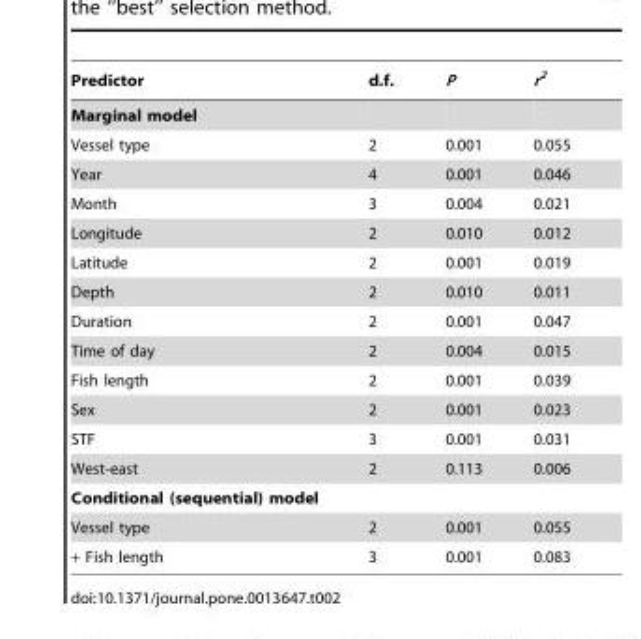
<table><thead><tr><td>Predictor</td><td>d.f.</td><td>P</td><td>r<sup>2</sup></td></tr></thead><tbody><tr><td colspan="4">Marginal model</td></tr><tr><td>Vessel type</td><td>2</td><td>0.001</td><td>0.055</td></tr><tr><td>Year</td><td>4</td><td>0.001</td><td>0.046</td></tr><tr><td>Month</td><td>3</td><td>0.004</td><td>0.021</td></tr><tr><td>Longitude</td><td>2</td><td>0.010</td><td>0.012</td></tr><tr><td>Latitude</td><td>2</td><td>0.001</td><td>0.019</td></tr><tr><td>Depth</td><td>2</td><td>0.010</td><td>0.011</td></tr><tr><td>Duration</td><td>2</td><td>0.001</td><td>0.047</td></tr><tr><td>Time of day</td><td>2</td><td>0.004</td><td>0.015</td></tr><tr><td>Fish length</td><td>2</td><td>0.001</td><td>0.039</td></tr><tr><td>Sex</td><td>2</td><td>0.001</td><td>0.023</td></tr><tr><td>STF</td><td>3</td><td>0.001</td><td>0.031</td></tr><tr><td>West-east</td><td>2</td><td>0.113</td><td>0.006</td></tr><tr><td colspan="4">Conditional (sequential) model</td></tr><tr><td>Vessel type</td><td>2</td><td>0.001</td><td>0.055</td></tr><tr><td>+ Fish length</td><td>3</td><td>0.001</td><td>0.083</td></tr></tbody></table>